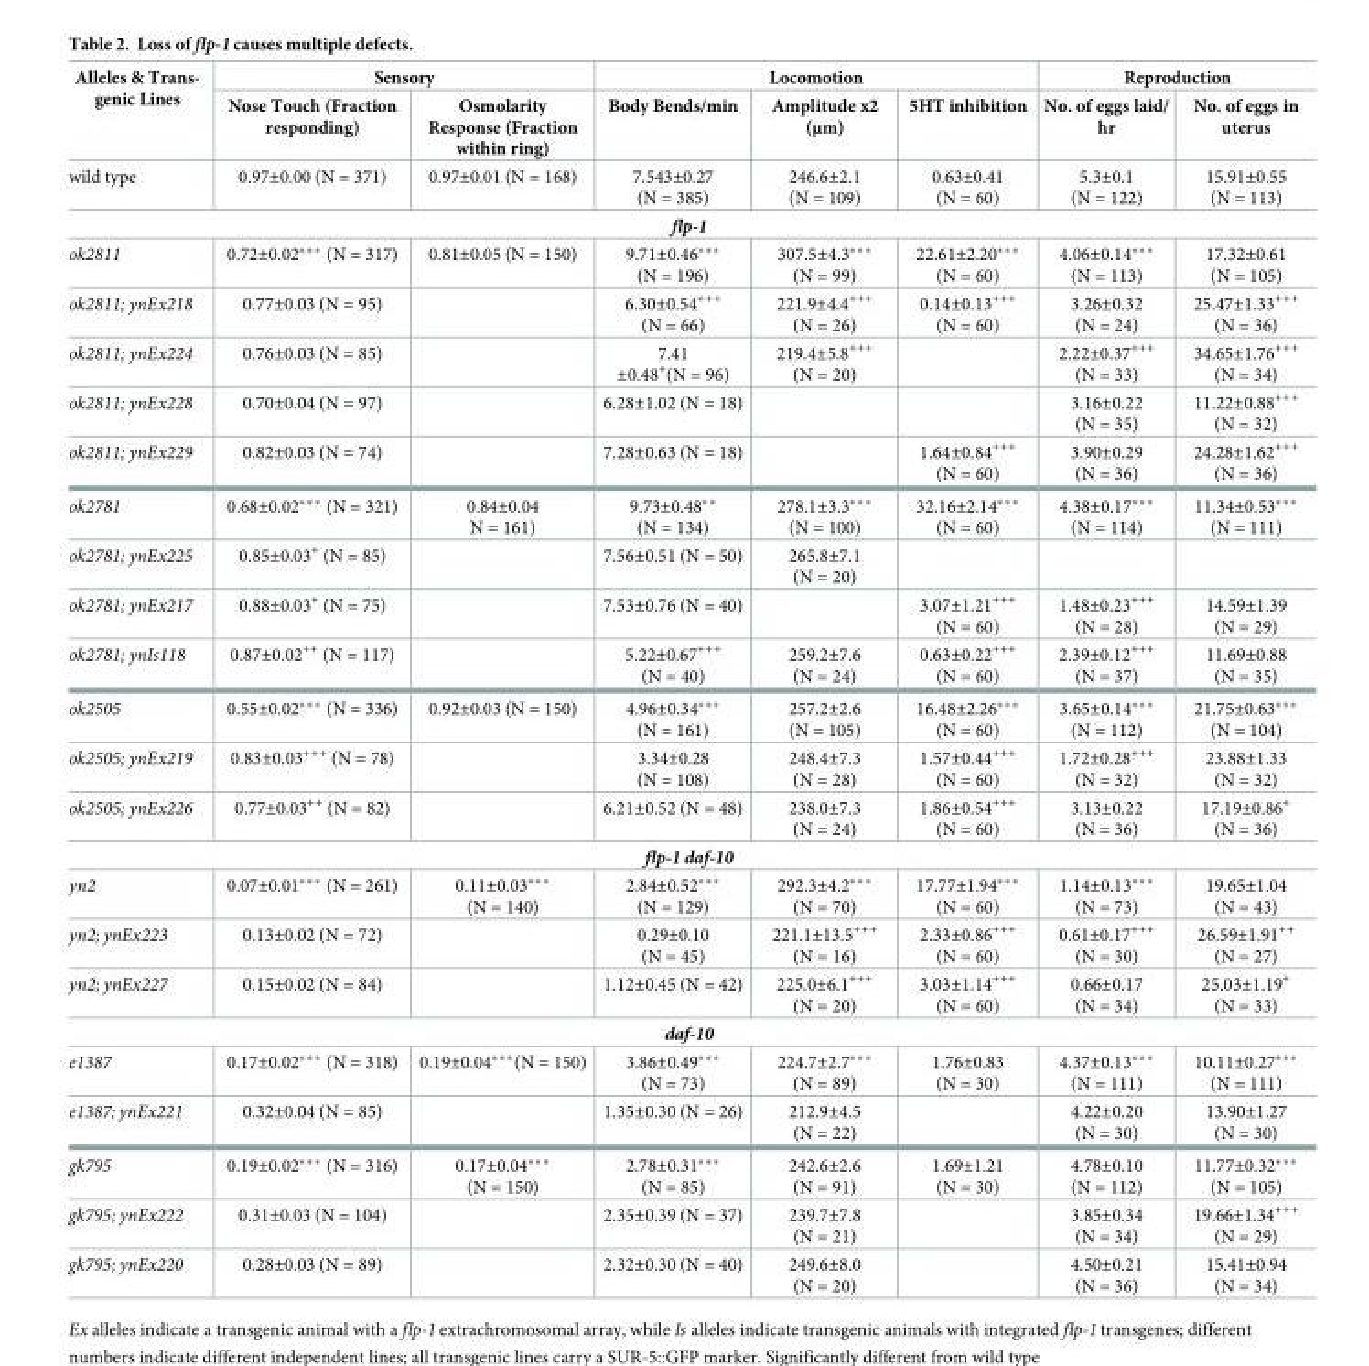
<table><thead><tr><td rowspan="2">Alleles &amp; Trans- genic Lines</td><td colspan="2">Sensory</td><td colspan="3">Locomotion</td><td colspan="2">Reproduction</td></tr><tr><td>Nose Touch (Fraction responding)</td><td>Osmolarity Response (Fraction within ring)</td><td>Body Bends/min</td><td>Amplitude x2 (μm)</td><td>5HT inhibition</td><td>No. of eggs laid/ hr</td><td>No. of eggs in uterus</td></tr></thead><tbody><tr><td>wild type</td><td>0.97±0.00 (N = 371)</td><td>0.97±0.01 (N = 168)</td><td>7.543±0.27 (N = 385)</td><td>246.6±2.1 (N = 109)</td><td>0.63±0.41 (N = 60)</td><td>5.3±0.1 (N = 122)</td><td>15.91±0.55 (N = 113)</td></tr><tr><td colspan="8">flp-1</td></tr><tr><td>ok2811</td><td>0.72±0.02*** (N = 317)</td><td>0.81±0.05 (N = 150)</td><td>9.71±0.46*** (N = 196)</td><td>307.5±4.3*** (N = 99)</td><td>22.61±2.20*** (N = 60)</td><td>4.06±0.14*** (N = 113)</td><td>17.32±0.61 (N = 105)</td></tr><tr><td>ok2811; ynEx218</td><td>0.77±0.03 (N = 95)</td><td></td><td>6.30±0.54<sup>+++</sup> (N = 66)</td><td>221.9±4.4<sup>+++</sup> (N = 26)</td><td>0.14±0.13<sup>+++</sup> (N = 60)</td><td>3.26±0.32 (N = 24)</td><td>25.47±1.33<sup>+++</sup> (N = 36)</td></tr><tr><td>ok2811; ynEx224</td><td>0.76±0.03 (N = 85)</td><td></td><td>7.41 ±0.48<sup>+</sup>(N = 96)</td><td>219.4±5.8<sup>+++</sup> (N = 20)</td><td></td><td>2.22±0.37<sup>+++</sup> (N = 33)</td><td>34.65±1.76<sup>+++</sup> (N = 34)</td></tr><tr><td>ok2811; ynEx228</td><td>0.70±0.04 (N = 97)</td><td></td><td>6.28±1.02 (N = 18)</td><td></td><td></td><td>3.16±0.22 (N = 35)</td><td>11.22±0.88<sup>+++</sup> (N = 32)</td></tr><tr><td>ok2811; ynEx229</td><td>0.82±0.03 (N = 74)</td><td></td><td>7.28±0.63 (N = 18)</td><td></td><td>1.64±0.84<sup>+++</sup> (N = 60)</td><td>3.90±0.29 (N = 36)</td><td>24.28±1.62<sup>+++</sup> (N = 36)</td></tr><tr><td>ok2781</td><td>0.68±0.02*** (N = 321)</td><td>0.84±0.04 N = 161)</td><td>9.73±0.48** (N = 134)</td><td>278.1±3.3*** (N = 100)</td><td>32.16±2.14*** (N = 60)</td><td>4.38±0.17*** (N = 114)</td><td>11.34±0.53*** (N = 111)</td></tr><tr><td>ok2781; ynEx225</td><td>0.85±0.03<sup>+</sup> (N = 85)</td><td></td><td>7.56±0.51 (N = 50)</td><td>265.8±7.1 (N = 20)</td><td></td><td></td><td></td></tr><tr><td>ok2781; ynEx217</td><td>0.88±0.03<sup>+</sup> (N = 75)</td><td></td><td>7.53±0.76 (N = 40)</td><td></td><td>3.07±1.21<sup>+++</sup> (N = 60)</td><td>1.48±0.23<sup>+++</sup> (N = 28)</td><td>14.59±1.39 (N = 29)</td></tr><tr><td>ok2781; ynIs118</td><td>0.87±0.02<sup>++</sup> (N = 117)</td><td></td><td>5.22±0.67<sup>+++</sup> (N = 40)</td><td>259.2±7.6 (N = 24)</td><td>0.63±0.22<sup>+++</sup> (N = 60)</td><td>2.39±0.12<sup>+++</sup> (N = 37)</td><td>11.69±0.88 (N = 35)</td></tr><tr><td>ok2505</td><td>0.55±0.02*** (N = 336)</td><td>0.92±0.03 (N = 150)</td><td>4.96±0.34*** (N = 161)</td><td>257.2±2.6 (N = 105)</td><td>16.48±2.26*** (N = 60)</td><td>3.65±0.14*** (N = 112)</td><td>21.75±0.63*** (N = 104)</td></tr><tr><td>ok2505; ynEx219</td><td>0.83±0.03<sup>+++</sup> (N = 78)</td><td></td><td>3.34±0.28 (N = 108)</td><td>248.4±7.3 (N = 28)</td><td>1.57±0.44<sup>+++</sup> (N = 60)</td><td>1.72±0.28<sup>+++</sup> (N = 32)</td><td>23.88±1.33 (N = 32)</td></tr><tr><td>ok2505; ynEx226</td><td>0.77±0.03<sup>++</sup> (N = 82)</td><td></td><td>6.21±0.52 (N = 48)</td><td>238.0±7.3 (N = 24)</td><td>1.86±0.54<sup>+++</sup> (N = 60)</td><td>3.13±0.22 (N = 36)</td><td>17.19±0.86<sup>+</sup> (N = 36)</td></tr><tr><td colspan="8">flp-1 daf-10</td></tr><tr><td>yn2</td><td>0.07±0.01*** (N = 261)</td><td>0.11±0.03*** (N = 140)</td><td>2.84±0.52*** (N = 129)</td><td>292.3±4.2*** (N = 70)</td><td>17.77±1.94*** (N = 60)</td><td>1.14±0.13*** (N = 73)</td><td>19.65±1.04 (N = 43)</td></tr><tr><td>yn2; ynEx223</td><td>0.13±0.02 (N = 72)</td><td></td><td>0.29±0.10 (N = 45)</td><td>221.1±13.5<sup>+++</sup> (N = 16)</td><td>2.33±0.86<sup>+++</sup> (N = 60)</td><td>0.61±0.17<sup>+++</sup> (N = 30)</td><td>26.59±1.91<sup>++</sup> (N = 27)</td></tr><tr><td>yn2; ynEx227</td><td>0.15±0.02 (N = 84)</td><td></td><td>1.12±0.45 (N = 42)</td><td>225.0±6.1<sup>+++</sup> (N = 20)</td><td>3.03±1.14<sup>+++</sup> (N = 60)</td><td>0.66±0.17 (N = 34)</td><td>25.03±1.19<sup>+</sup> (N = 33)</td></tr><tr><td colspan="8">daf-10</td></tr><tr><td>e1387</td><td>0.17±0.02*** (N = 318)</td><td>0.19±0.04***(N = 150)</td><td>3.86±0.49*** (N = 73)</td><td>224.7±2.7*** (N = 89)</td><td>1.76±0.83 (N = 30)</td><td>4.37±0.13*** (N = 111)</td><td>10.11±0.27*** (N = 111)</td></tr><tr><td>e1387; ynEx221</td><td>0.32±0.04 (N = 85)</td><td></td><td>1.35±0.30 (N = 26)</td><td>212.9±4.5 (N = 22)</td><td></td><td>4.22±0.20 (N = 30)</td><td>13.90±1.27 (N = 30)</td></tr><tr><td>gk795</td><td>0.19±0.02*** (N = 316)</td><td>0.17±0.04*** (N = 150)</td><td>2.78±0.31*** (N = 85)</td><td>242.6±2.6 (N = 91)</td><td>1.69±1.21 (N = 30)</td><td>4.78±0.10 (N = 112)</td><td>11.77±0.32*** (N = 105)</td></tr><tr><td>gk795; ynEx222</td><td>0.31±0.03 (N = 104)</td><td></td><td>2.35±0.39 (N = 37)</td><td>239.7±7.8 (N = 21)</td><td></td><td>3.85±0.34 (N = 34)</td><td>19.66±1.34<sup>+++</sup> (N = 29)</td></tr><tr><td>gk795; ynEx220</td><td>0.28±0.03 (N = 89)</td><td></td><td>2.32±0.30 (N = 40)</td><td>249.6±8.0 (N = 20)</td><td></td><td>4.50±0.21 (N = 36)</td><td>15.41±0.94 (N = 34)</td></tr></tbody></table>